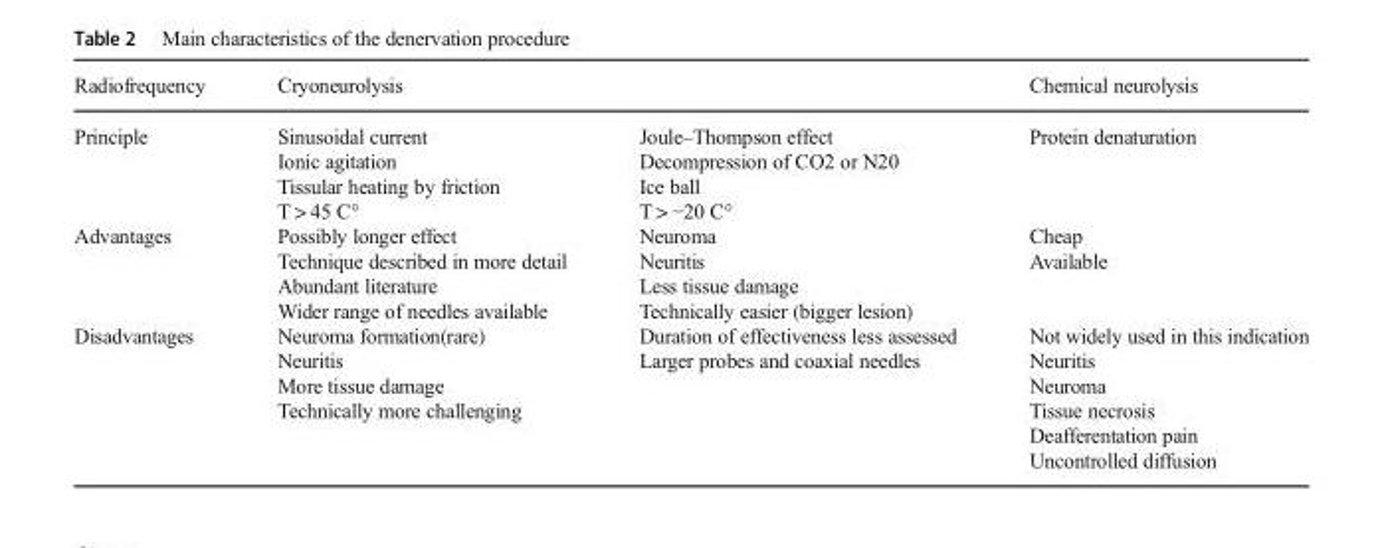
<table><thead><tr><td rowspan="2">Radiofrequency Principle</td><td colspan="2">Cryoneurolysis</td><td rowspan="2">Chemical neurolysis Protein denaturation</td></tr><tr><td>Sinusoidal current Ionic agitation Tissular heating by friction T &gt; 45 C°</td><td>Joule–Thompson effect Decompression of CO2 or N20 Ice ball T &gt; −20 C°</td></tr></thead><tbody><tr><td>Advantages</td><td>Possibly longer effect Technique described in more detail Abundant literature Wider range of needles available</td><td>Neuroma Neuritis Less tissue damage Technically easier (bigger lesion)</td><td>Cheap Available</td></tr><tr><td>Disadvantages</td><td>Neuroma formation(rare) Neuritis More tissue damage Technically more challenging</td><td>Duration of effectiveness less assessed Larger probes and coaxial needles</td><td>Not widely used in this indication Neuritis Neuroma Tissue necrosis Deafferentation pain Uncontrolled diffusion</td></tr></tbody></table>